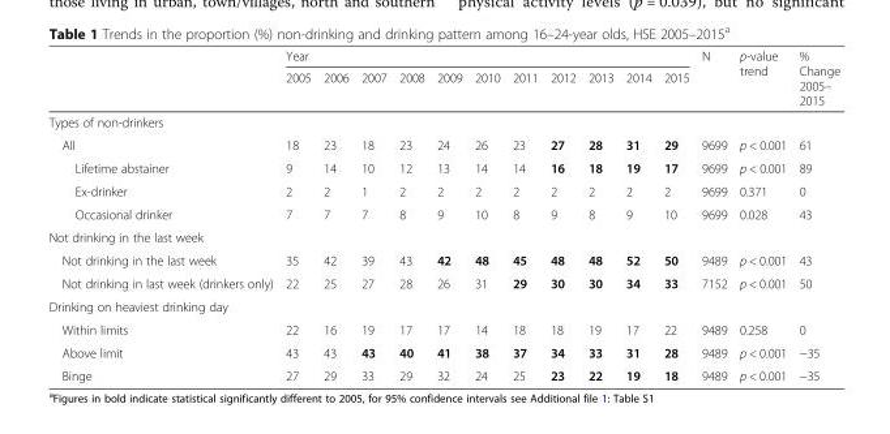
<table><thead><tr><td rowspan="2"></td><td colspan="11">Year</td><td rowspan="2">N</td><td rowspan="2">p-value trend</td><td rowspan="2">% Change 2005– 2015</td></tr><tr><td>2005</td><td>2006</td><td>2007</td><td>2008</td><td>2009</td><td>2010</td><td>2011</td><td>2012</td><td>2013</td><td>2014</td><td>2015</td></tr></thead><tbody><tr><td colspan="15">Types of non-drinkers</td></tr><tr><td>All</td><td>18</td><td>23</td><td>18</td><td>23</td><td>24</td><td>26</td><td>23</td><td>27</td><td>28</td><td>31</td><td>29</td><td>9699</td><td>p &lt; 0.001</td><td>61</td></tr><tr><td>Lifetime abstainer</td><td>9</td><td>14</td><td>10</td><td>12</td><td>13</td><td>14</td><td>14</td><td>16</td><td>18</td><td>19</td><td>17</td><td>9699</td><td>p &lt; 0.001</td><td>89</td></tr><tr><td>Ex-drinker</td><td>2</td><td>2</td><td>1</td><td>2</td><td>2</td><td>2</td><td>2</td><td>2</td><td>2</td><td>2</td><td>2</td><td>9699</td><td>0.371</td><td>0</td></tr><tr><td>Occasional drinker</td><td>7</td><td>7</td><td>7</td><td>8</td><td>9</td><td>10</td><td>8</td><td>9</td><td>8</td><td>9</td><td>10</td><td>9699</td><td>0.028</td><td>43</td></tr><tr><td colspan="15">Not drinking in the last week</td></tr><tr><td>Not drinking in the last week</td><td>35</td><td>42</td><td>39</td><td>43</td><td>42</td><td>48</td><td>45</td><td>48</td><td>48</td><td>52</td><td>50</td><td>9489</td><td>p &lt; 0.001</td><td>43</td></tr><tr><td>Not drinking in last week (drinkers only)</td><td>22</td><td>25</td><td>27</td><td>28</td><td>26</td><td>31</td><td>29</td><td>30</td><td>30</td><td>34</td><td>33</td><td>7152</td><td>p &lt; 0.001</td><td>50</td></tr><tr><td colspan="15">Drinking on heaviest drinking day</td></tr><tr><td>Within limits</td><td>22</td><td>16</td><td>19</td><td>17</td><td>17</td><td>14</td><td>18</td><td>18</td><td>19</td><td>17</td><td>22</td><td>9489</td><td>0.258</td><td>0</td></tr><tr><td>Above limit</td><td>43</td><td>43</td><td>43</td><td>40</td><td>41</td><td>38</td><td>37</td><td>34</td><td>33</td><td>31</td><td>28</td><td>9489</td><td>p &lt; 0.001</td><td>−35</td></tr><tr><td>Binge</td><td>27</td><td>29</td><td>33</td><td>29</td><td>32</td><td>24</td><td>25</td><td>23</td><td>22</td><td>19</td><td>18</td><td>9489</td><td>p &lt; 0.001</td><td>−35</td></tr></tbody></table>